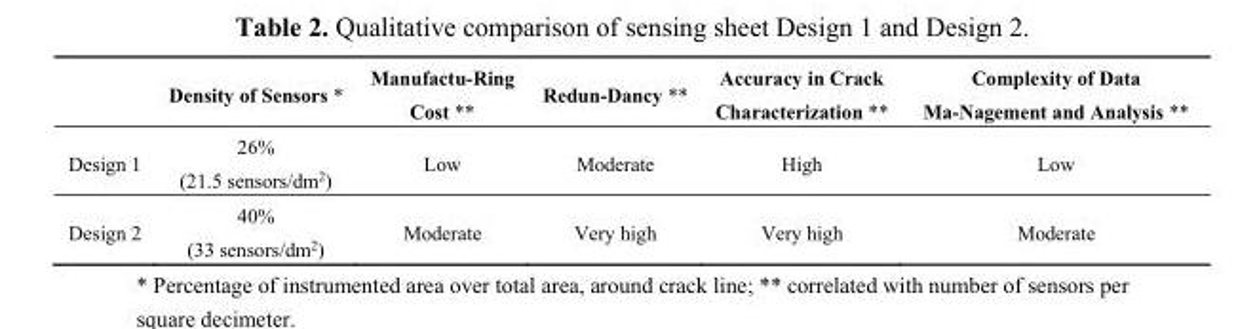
<table><thead><tr><td></td><td>Density of Sensors *</td><td>Manufactu-Ring Cost **</td><td>Redun-Dancy **</td><td>Accuracy in Crack Characterization **</td><td>Complexity of Data Ma-Nagement and Analysis **</td></tr></thead><tbody><tr><td>Design 1</td><td>26% (21.5 sensors/dm<sup>2</sup>)</td><td>Low</td><td>Moderate</td><td>High</td><td>Low</td></tr><tr><td>Design 2</td><td>40% (33 sensors/dm<sup>2</sup>)</td><td>Moderate</td><td>Very high</td><td>Very high</td><td>Moderate</td></tr></tbody></table>